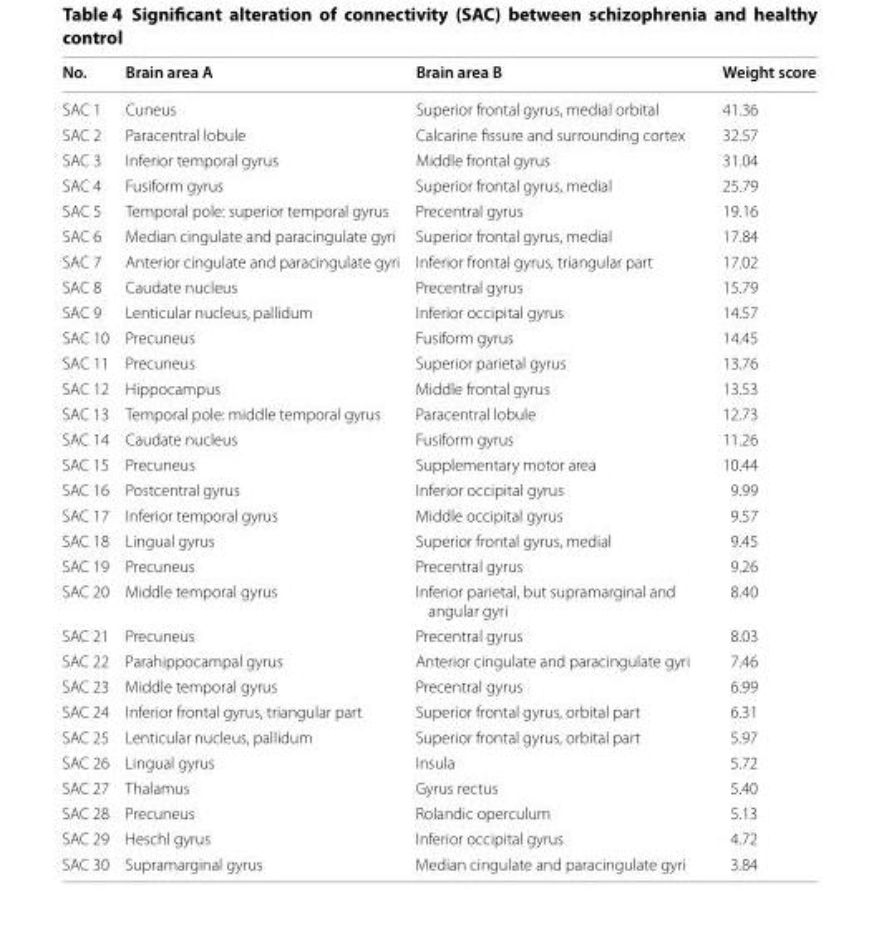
<table><thead><tr><td>No.</td><td>Brain area A</td><td>Brain area B</td><td>Weight score</td></tr></thead><tbody><tr><td>SAC 1</td><td>Cuneus</td><td>Superior frontal gyrus, medial orbital</td><td>41.36</td></tr><tr><td>SAC 2</td><td>Paracentral lobule</td><td>Calcarine fissure and surrounding cortex</td><td>32.57</td></tr><tr><td>SAC 3</td><td>Inferior temporal gyrus</td><td>Middle frontal gyrus</td><td>31.04</td></tr><tr><td>SAC 4</td><td>Fusiform gyrus</td><td>Superior frontal gyrus, medial</td><td>25.79</td></tr><tr><td>SAC 5</td><td>Temporal pole: superior temporal gyrus</td><td>Precentral gyrus</td><td>19.16</td></tr><tr><td>SAC 6</td><td>Median cingulate and paracingulate gyri</td><td>Superior frontal gyrus, medial</td><td>17.84</td></tr><tr><td>SAC 7</td><td>Anterior cingulate and paracingulate gyri</td><td>Inferior frontal gyrus, triangular part</td><td>17.02</td></tr><tr><td>SAC 8</td><td>Caudate nucleus</td><td>Precentral gyrus</td><td>15.79</td></tr><tr><td>SAC 9</td><td>Lenticular nucleus, pallidum</td><td>Inferior occipital gyrus</td><td>14.57</td></tr><tr><td>SAC 10</td><td>Precuneus</td><td>Fusiform gyrus</td><td>14.45</td></tr><tr><td>SAC 11</td><td>Precuneus</td><td>Superior parietal gyrus</td><td>13.76</td></tr><tr><td>SAC 12</td><td>Hippocampus</td><td>Middle frontal gyrus</td><td>13.53</td></tr><tr><td>SAC 13</td><td>Temporal pole: middle temporal gyrus</td><td>Paracentral lobule</td><td>12.73</td></tr><tr><td>SAC 14</td><td>Caudate nucleus</td><td>Fusiform gyrus</td><td>11.26</td></tr><tr><td>SAC 15</td><td>Precuneus</td><td>Supplementary motor area</td><td>10.44</td></tr><tr><td>SAC 16</td><td>Postcentral gyrus</td><td>Inferior occipital gyrus</td><td>9.99</td></tr><tr><td>SAC 17</td><td>Inferior temporal gyrus</td><td>Middle occipital gyrus</td><td>9.57</td></tr><tr><td>SAC 18</td><td>Lingual gyrus</td><td>Superior frontal gyrus, medial</td><td>9.45</td></tr><tr><td>SAC 19</td><td>Precuneus</td><td>Precentral gyrus</td><td>9.26</td></tr><tr><td>SAC 20</td><td>Middle temporal gyrus</td><td>Inferior parietal, but supramarginal and angular gyri</td><td>8.40</td></tr><tr><td>SAC 21</td><td>Precuneus</td><td>Precentral gyrus</td><td>8.03</td></tr><tr><td>SAC 22</td><td>Parahippocampal gyrus</td><td>Anterior cingulate and paracingulate gyri</td><td>7.46</td></tr><tr><td>SAC 23</td><td>Middle temporal gyrus</td><td>Precentral gyrus</td><td>6.99</td></tr><tr><td>SAC 24</td><td>Inferior frontal gyrus, triangular part</td><td>Superior frontal gyrus, orbital part</td><td>6.31</td></tr><tr><td>SAC 25</td><td>Lenticular nucleus, pallidum</td><td>Superior frontal gyrus, orbital part</td><td>5.97</td></tr><tr><td>SAC 26</td><td>Lingual gyrus</td><td>Insula</td><td>5.72</td></tr><tr><td>SAC 27</td><td>Thalamus</td><td>Gyrus rectus</td><td>5.40</td></tr><tr><td>SAC 28</td><td>Precuneus</td><td>Rolandic operculum</td><td>5.13</td></tr><tr><td>SAC 29</td><td>Heschl gyrus</td><td>Inferior occipital gyrus</td><td>4.72</td></tr><tr><td>SAC 30</td><td>Supramarginal gyrus</td><td>Median cingulate and paracingulate gyri</td><td>3.84</td></tr></tbody></table>